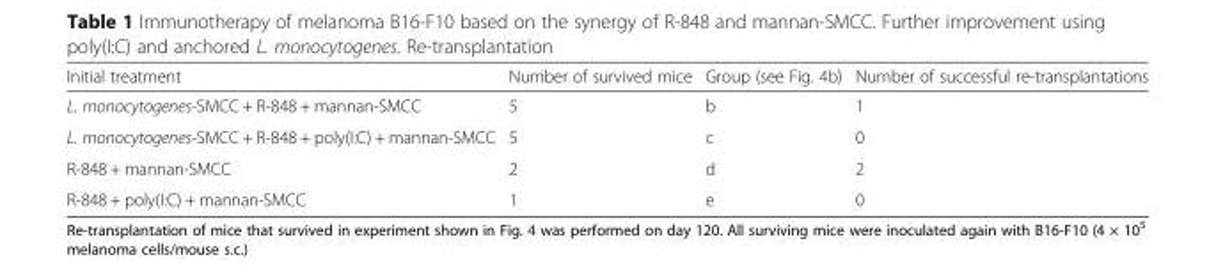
<table><thead><tr><td>Initial treatment</td><td>Number of survived mice</td><td>Group (see Fig. 4b)</td><td>Number of successful re-transplantations</td></tr></thead><tbody><tr><td>L. monocytogenes-SMCC + R-848 + mannan-SMCC</td><td>5</td><td>b</td><td>1</td></tr><tr><td>L. monocytogenes-SMCC + R-848 + poly(I:C) + mannan-SMCC</td><td>5</td><td>c</td><td>0</td></tr><tr><td>R-848 + mannan-SMCC</td><td>2</td><td>d</td><td>2</td></tr><tr><td>R-848 + poly(I:C) + mannan-SMCC</td><td>1</td><td>e</td><td>0</td></tr></tbody></table>